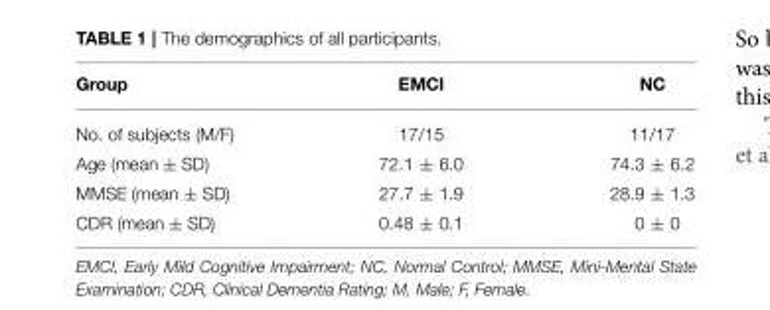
<table><thead><tr><td>Group</td><td>EMCI</td><td>NC</td></tr></thead><tbody><tr><td>No. of subjects (M/F)</td><td>17/15</td><td>11/17</td></tr><tr><td>Age (mean ± SD)</td><td>72.1 ± 6.0</td><td>74.3 ± 6.2</td></tr><tr><td>MMSE (mean ± SD)</td><td>27.7 ± 1.9</td><td>28.9 ± 1.3</td></tr><tr><td>CDR (mean ± SD)</td><td>0.48 ± 0.1</td><td>0 ± 0</td></tr></tbody></table>